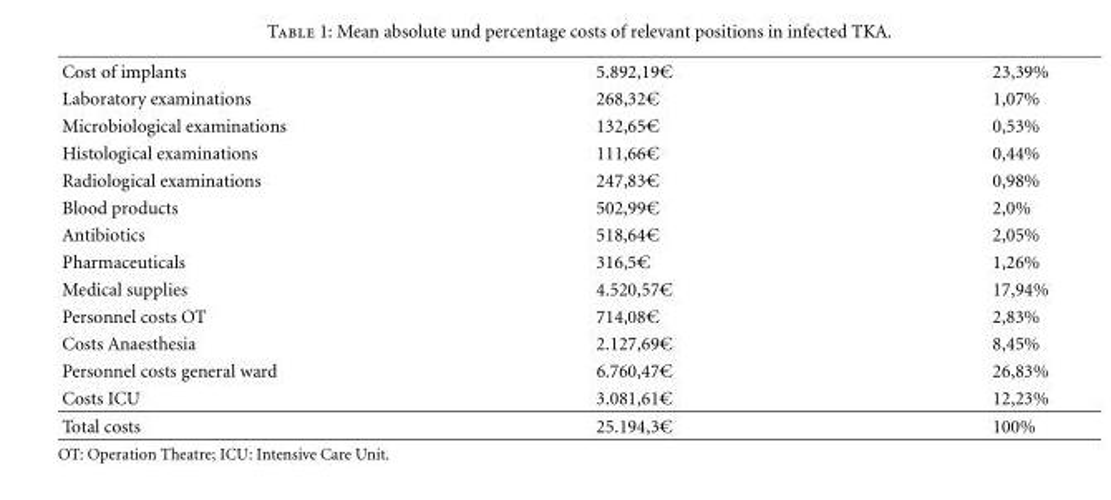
<table><tbody><tr><td>Cost of implants</td><td>5.892,19€</td><td>23,39%</td></tr><tr><td>Laboratory examinations</td><td>268,32€</td><td>1,07%</td></tr><tr><td>Microbiological examinations</td><td>132,65€</td><td>0,53%</td></tr><tr><td>Histological examinations</td><td>111,66€</td><td>0,44%</td></tr><tr><td>Radiological examinations</td><td>247,83€</td><td>0,98%</td></tr><tr><td>Blood products</td><td>502,99€</td><td>2,0%</td></tr><tr><td>Antibiotics</td><td>518,64€</td><td>2,05%</td></tr><tr><td>Pharmaceuticals</td><td>316,5€</td><td>1,26%</td></tr><tr><td>Medical supplies</td><td>4.520,57€</td><td>17,94%</td></tr><tr><td>Personnel costs OT</td><td>714,08€</td><td>2,83%</td></tr><tr><td>Costs Anaesthesia</td><td>2.127,69€</td><td>8,45%</td></tr><tr><td>Personnel costs general ward</td><td>6.760,47€</td><td>26,83%</td></tr><tr><td>Costs ICU</td><td>3.081,61€</td><td>12,23%</td></tr><tr><td>Total costs</td><td>25.194,3€</td><td>100%</td></tr></tbody></table>